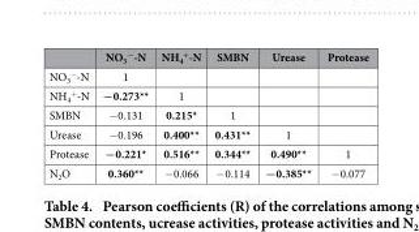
<table><thead><tr><td></td><td>NO<sub>3</sub> <sup>−</sup>-N</td><td>NH<sub>4</sub> <sup>+</sup>-N</td><td>SMBN</td><td>Urease</td><td>Protease</td></tr></thead><tbody><tr><td>NO<sub>3</sub> <sup>−</sup>-N</td><td>1</td><td></td><td></td><td></td><td></td></tr><tr><td>NH<sub>4</sub> <sup>+</sup>-N</td><td>−0.273**</td><td>1</td><td></td><td></td><td></td></tr><tr><td>SMBN</td><td>− 0.131</td><td>0.215*</td><td>1</td><td></td><td></td></tr><tr><td>Urease</td><td>− 0.196</td><td>0.400**</td><td>0.431**</td><td>1</td><td></td></tr><tr><td>Protease</td><td>−0.221*</td><td>0.516**</td><td>0.344**</td><td>0.490**</td><td>1</td></tr><tr><td>N<sub>2</sub>O</td><td>0.360**</td><td>− 0.066</td><td>− 0.114</td><td>−0.385**</td><td>− 0.077</td></tr></tbody></table>